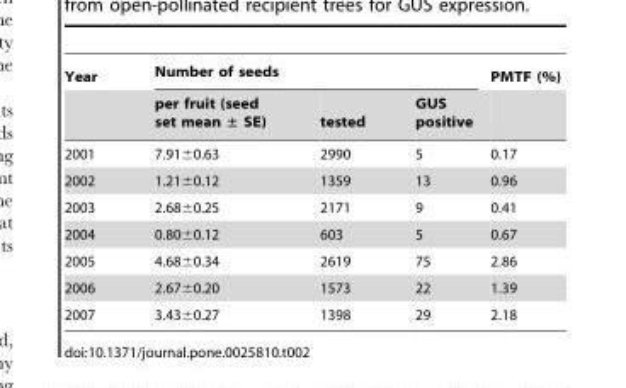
<table><thead><tr><td rowspan="2">Year</td><td colspan="3">Number of seeds</td><td rowspan="2">PMTF (%)</td></tr><tr><td>per fruit (seed set mean ± SE)</td><td>tested</td><td>GUS positive</td></tr></thead><tbody><tr><td>2001</td><td>7.91±0.63</td><td>2990</td><td>5</td><td>0.17</td></tr><tr><td>2002</td><td>1.21±0.12</td><td>1359</td><td>13</td><td>0.96</td></tr><tr><td>2003</td><td>2.68±0.25</td><td>2171</td><td>9</td><td>0.41</td></tr><tr><td>2004</td><td>0.80±0.12</td><td>603</td><td>5</td><td>0.67</td></tr><tr><td>2005</td><td>4.68±0.34</td><td>2619</td><td>75</td><td>2.86</td></tr><tr><td>2006</td><td>2.67±0.20</td><td>1573</td><td>22</td><td>1.39</td></tr><tr><td>2007</td><td>3.43±0.27</td><td>1398</td><td>29</td><td>2.18</td></tr></tbody></table>